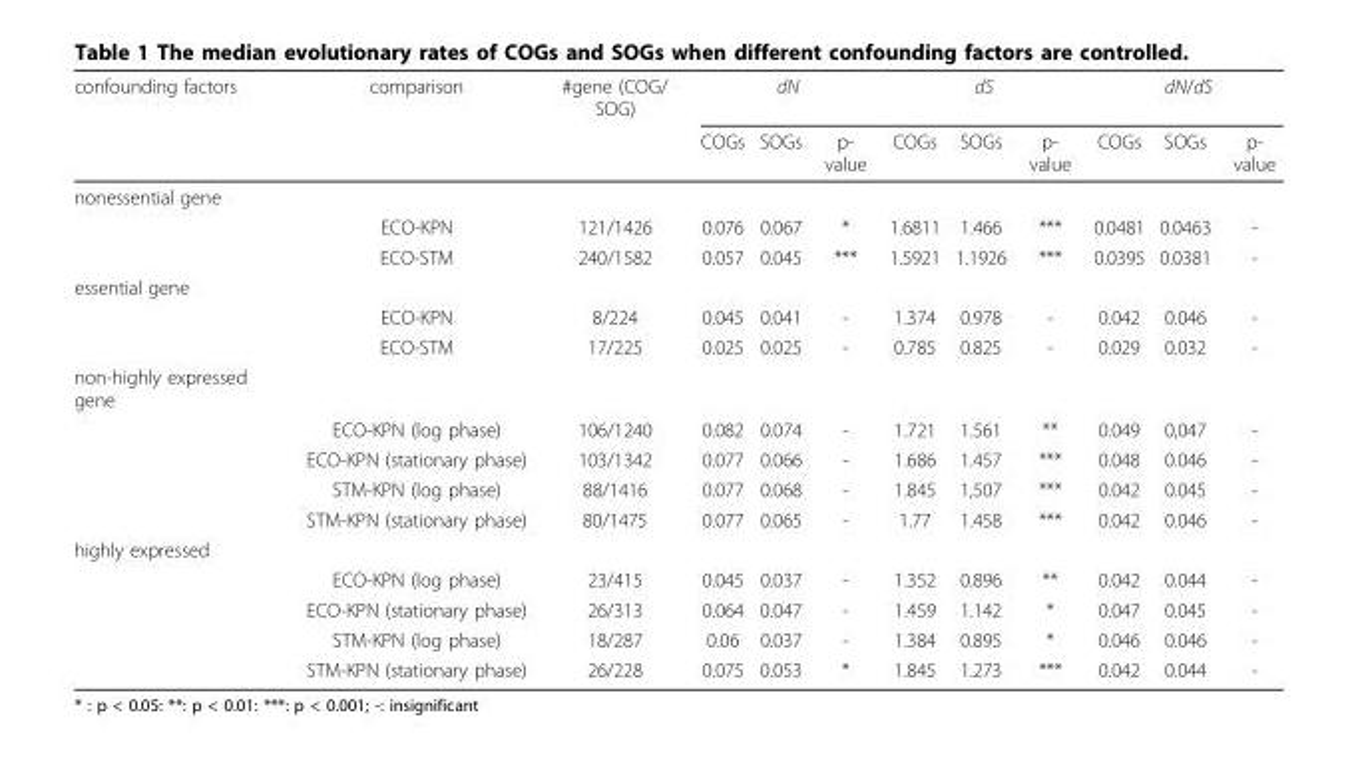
<table><thead><tr><td rowspan="2">confounding factors</td><td rowspan="2">comparison</td><td rowspan="2">#gene (COG/ SOG)</td><td colspan="3">dN</td><td colspan="3">dS</td><td colspan="3">dN/dS</td></tr><tr><td>COGs</td><td>SOGs</td><td>p- value</td><td>COGs</td><td>SOGs</td><td>p- value</td><td>COGs</td><td>SOGs</td><td>p- value</td></tr></thead><tbody><tr><td colspan="12">nonessential gene</td></tr><tr><td></td><td>ECO-KPN</td><td>121/1426</td><td>0.076</td><td>0.067</td><td>*</td><td>1.6811</td><td>1.466</td><td>***</td><td>0.0481</td><td>0.0463</td><td>-</td></tr><tr><td></td><td>ECO-STM</td><td>240/1582</td><td>0.057</td><td>0.045</td><td>***</td><td>1.5921</td><td>1.1926</td><td>***</td><td>0.0395</td><td>0.0381</td><td>-</td></tr><tr><td colspan="12">essential gene</td></tr><tr><td></td><td>ECO-KPN</td><td>8/224</td><td>0.045</td><td>0.041</td><td>-</td><td>1.374</td><td>0.978</td><td>-</td><td>0.042</td><td>0.046</td><td>-</td></tr><tr><td></td><td>ECO-STM</td><td>17/225</td><td>0.025</td><td>0.025</td><td>-</td><td>0.785</td><td>0.825</td><td>-</td><td>0.029</td><td>0.032</td><td>-</td></tr><tr><td colspan="12">non-highly expressed gene</td></tr><tr><td></td><td>ECO-KPN (log phase)</td><td>106/1240</td><td>0.082</td><td>0.074</td><td>-</td><td>1.721</td><td>1.561</td><td>**</td><td>0.049</td><td>0,047</td><td>-</td></tr><tr><td></td><td>ECO-KPN (stationary phase)</td><td>103/1342</td><td>0.077</td><td>0.066</td><td>-</td><td>1.686</td><td>1.457</td><td>***</td><td>0.048</td><td>0.046</td><td>-</td></tr><tr><td></td><td>STM-KPN (log phase)</td><td>88/1416</td><td>0.077</td><td>0.068</td><td>-</td><td>1.845</td><td>1,507</td><td>***</td><td>0.042</td><td>0.045</td><td>-</td></tr><tr><td></td><td>STM-KPN (stationary phase)</td><td>80/1475</td><td>0.077</td><td>0.065</td><td>-</td><td>1.77</td><td>1.458</td><td>***</td><td>0.042</td><td>0.046</td><td>-</td></tr><tr><td colspan="12">highly expressed</td></tr><tr><td></td><td>ECO-KPN (log phase)</td><td>23/415</td><td>0.045</td><td>0.037</td><td>-</td><td>1.352</td><td>0.896</td><td>**</td><td>0.042</td><td>0.044</td><td>-</td></tr><tr><td></td><td>ECO-KPN (stationary phase)</td><td>26/313</td><td>0.064</td><td>0.047</td><td>-</td><td>1.459</td><td>1.142</td><td>*</td><td>0.047</td><td>0.045</td><td>-</td></tr><tr><td></td><td>STM-KPN (log phase)</td><td>18/287</td><td>0.06</td><td>0.037</td><td>-</td><td>1.384</td><td>0.895</td><td>*</td><td>0.046</td><td>0.046</td><td>-</td></tr><tr><td></td><td>STM-KPN (stationary phase)</td><td>26/228</td><td>0.075</td><td>0.053</td><td>*</td><td>1.845</td><td>1.273</td><td>***</td><td>0.042</td><td>0.044</td><td>-</td></tr></tbody></table>